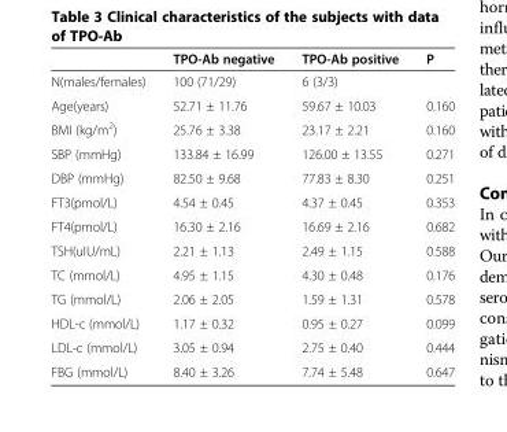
<table><thead><tr><td></td><td>TPO-Ab negative</td><td>TPO-Ab positive</td><td>P</td></tr></thead><tbody><tr><td>N(males/females)</td><td>100 (71/29)</td><td>6 (3/3)</td><td></td></tr><tr><td>Age(years)</td><td>52.71 ± 11.76</td><td>59.67 ± 10.03</td><td>0.160</td></tr><tr><td>BMI (kg/m<sup>2</sup>)</td><td>25.76 ± 3.38</td><td>23.17 ± 2.21</td><td>0.160</td></tr><tr><td>SBP (mmHg)</td><td>133.84 ± 16.99</td><td>126.00 ± 13.55</td><td>0.271</td></tr><tr><td>DBP (mmHg)</td><td>82.50 ± 9.68</td><td>77.83 ± 8.30</td><td>0.251</td></tr><tr><td>FT3(pmol/L)</td><td>4.54 ± 0.45</td><td>4.37 ± 0.45</td><td>0.353</td></tr><tr><td>FT4(pmol/L)</td><td>16.30 ± 2.16</td><td>16.69 ± 2.16</td><td>0.682</td></tr><tr><td>TSH(uIU/mL)</td><td>2.21 ± 1.13</td><td>2.49 ± 1.15</td><td>0.588</td></tr><tr><td>TC (mmol/L)</td><td>4.95 ± 1.15</td><td>4.30 ± 0.48</td><td>0.176</td></tr><tr><td>TG (mmol/L)</td><td>2.06 ± 2.05</td><td>1.59 ± 1.31</td><td>0.578</td></tr><tr><td>HDL-c (mmol/L)</td><td>1.17 ± 0.32</td><td>0.95 ± 0.27</td><td>0.099</td></tr><tr><td>LDL-c (mmol/L)</td><td>3.05 ± 0.94</td><td>2.75 ± 0.40</td><td>0.444</td></tr><tr><td>FBG (mmol/L)</td><td>8.40 ± 3.26</td><td>7.74 ± 5.48</td><td>0.647</td></tr></tbody></table>